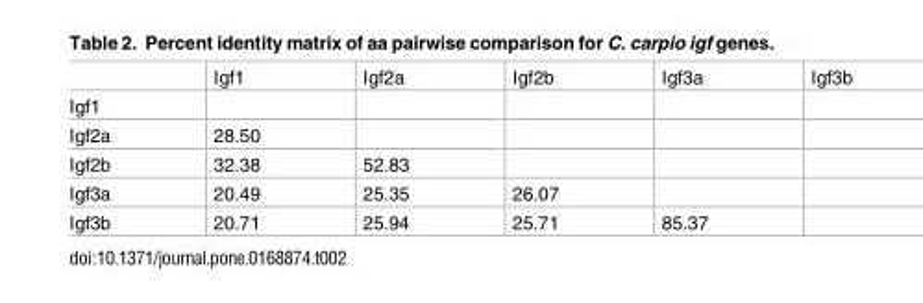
<table><thead><tr><td></td><td>Igf1</td><td>Igf2a</td><td>Igf2b</td><td>Igf3a</td><td>Igf3b</td></tr></thead><tbody><tr><td colspan="6">Igf1</td></tr><tr><td>Igf2a</td><td>28.50</td><td></td><td></td><td></td><td></td></tr><tr><td>Igf2b</td><td>32.38</td><td>52.83</td><td></td><td></td><td></td></tr><tr><td>Igf3a</td><td>20.49</td><td>25.35</td><td>26.07</td><td></td><td></td></tr><tr><td>Igf3b</td><td>20.71</td><td>25.94</td><td>25.71</td><td>85.37</td><td></td></tr></tbody></table>